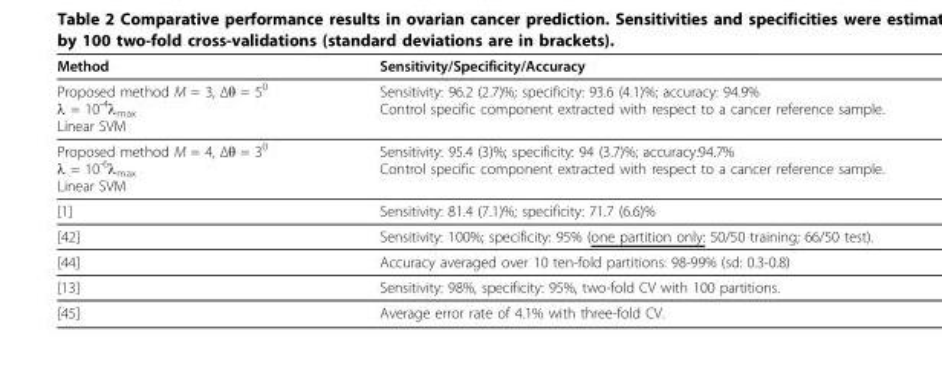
<table><thead><tr><td>Method</td><td>Sensitivity/Specificity/Accuracy</td></tr></thead><tbody><tr><td>Proposed method M = 3, Δθ = 5<sup>0</sup> λ = 10<sup>-4</sup>λ<sub>max</sub> Linear SVM</td><td>Sensitivity: 96.2 (2.7)%; specificity: 93.6 (4.1)%; accuracy: 94.9% Control specific component extracted with respect to a cancer reference sample.</td></tr><tr><td>Proposed method M = 4, Δθ = 3<sup>0</sup> λ = 10<sup>-6</sup>λ<sub>max</sub> Linear SVM</td><td>Sensitivity: 95.4 (3)%; specificity: 94 (3.7)%; accuracy:94.7% Control specific component extracted with respect to a cancer reference sample.</td></tr><tr><td>[1]</td><td>Sensitivity: 81.4 (7.1)%; specificity: 71.7 (6.6)%</td></tr><tr><td>[42]</td><td>Sensitivity: 100%; specificity: 95% (one partition only: 50/50 training; 66/50 test).</td></tr><tr><td>[44]</td><td>Accuracy averaged over 10 ten-fold partitions: 98-99% (sd: 0.3-0.8)</td></tr><tr><td>[13]</td><td>Sensitivity: 98%, specificity: 95%, two-fold CV with 100 partitions.</td></tr><tr><td>[45]</td><td>Average error rate of 4.1% with three-fold CV.</td></tr></tbody></table>